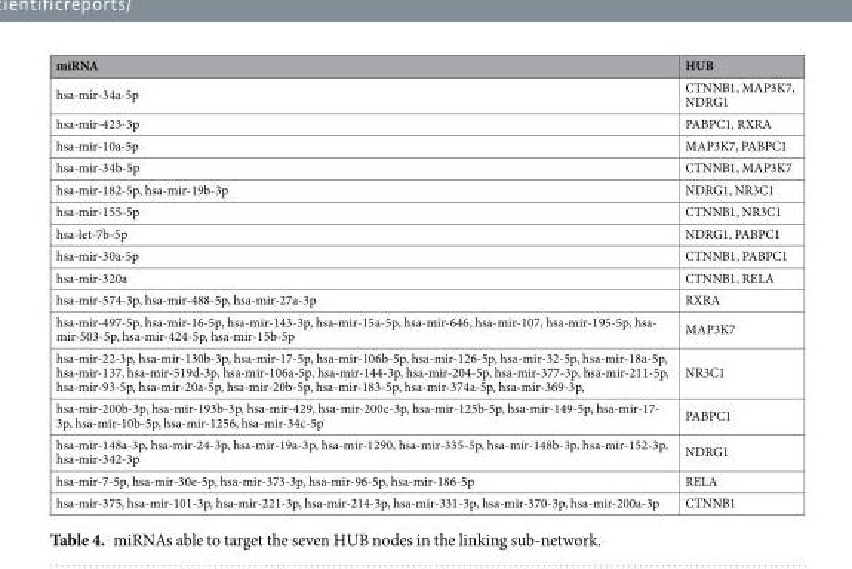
<table><thead><tr><td>miRNA</td><td>HUB</td></tr></thead><tbody><tr><td>hsa-mir-34a-5p</td><td>CTNNB1, MAP3K7, NDRG1</td></tr><tr><td>hsa-mir-423-3p</td><td>PABPC1, RXRA</td></tr><tr><td>hsa-mir-10a-5p</td><td>MAP3K7, PABPC1</td></tr><tr><td>hsa-mir-34b-5p</td><td>CTNNB1, MAP3K7</td></tr><tr><td>hsa-mir-182-5p, hsa-mir-19b-3p</td><td>NDRG1, NR3C1</td></tr><tr><td>hsa-mir-155-5p</td><td>CTNNB1, NR3C1</td></tr><tr><td>hsa-let-7b-5p</td><td>NDRG1, PABPC1</td></tr><tr><td>hsa-mir-30a-5p</td><td>CTNNB1, PABPC1</td></tr><tr><td>hsa-mir-320a</td><td>CTNNB1, RELA</td></tr><tr><td>hsa-mir-574-3p, hsa-mir-488-5p, hsa-mir-27a-3p</td><td>RXRA</td></tr><tr><td>hsa-mir-497-5p, hsa-mir-16-5p, hsa-mir-143-3p, hsa-mir-15a-5p, hsa-mir-646, hsa-mir-107, hsa-mir-195-5p, hsa- mir-503-5p, hsa-mir-424-5p, hsa-mir-15b-5p</td><td>MAP3K7</td></tr><tr><td>hsa-mir-22-3p, hsa-mir-130b-3p, hsa-mir-17-5p, hsa-mir-106b-5p, hsa-mir-126-5p, hsa-mir-32-5p, hsa-mir-18a-5p, hsa-mir-137, hsa-mir-519d-3p, hsa-mir-106a-5p, hsa-mir-144-3p, hsa-mir-204-5p, hsa-mir-377-3p, hsa-mir-211-5p, hsa-mir-93-5p, hsa-mir-20a-5p, hsa-mir-20b-5p, hsa-mir-183-5p, hsa-mir-374a-5p, hsa-mir-369-3p,</td><td>NR3C1</td></tr><tr><td>hsa-mir-200b-3p, hsa-mir-193b-3p, hsa-mir-429, hsa-mir-200c-3p, hsa-mir-125b-5p, hsa-mir-149-5p, hsa-mir-17- 3p, hsa-mir-10b-5p, hsa-mir-1256, hsa-mir-34c-5p</td><td>PABPC1</td></tr><tr><td>hsa-mir-148a-3p, hsa-mir-24-3p, hsa-mir-19a-3p, hsa-mir-1290, hsa-mir-335-5p, hsa-mir-148b-3p, hsa-mir-152-3p, hsa-mir-342-3p</td><td>NDRG1</td></tr><tr><td>hsa-mir-7-5p, hsa-mir-30e-5p, hsa-mir-373-3p, hsa-mir-96-5p, hsa-mir-186-5p</td><td>RELA</td></tr><tr><td>hsa-mir-375, hsa-mir-101-3p, hsa-mir-221-3p, hsa-mir-214-3p, hsa-mir-331-3p, hsa-mir-370-3p, hsa-mir-200a-3p</td><td>CTNNB1</td></tr></tbody></table>